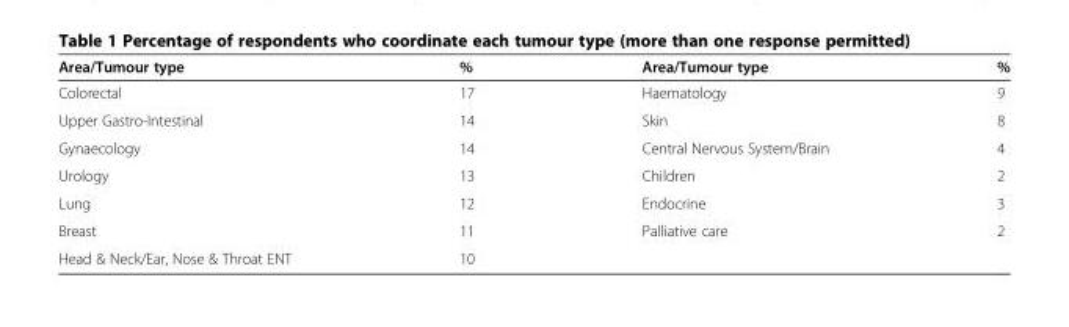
<table><thead><tr><td>Area/Tumour type</td><td>%</td><td>Area/Tumour type</td><td>%</td></tr></thead><tbody><tr><td>Colorectal</td><td>17</td><td>Haematology</td><td>9</td></tr><tr><td>Upper Gastro-Intestinal</td><td>14</td><td>Skin</td><td>8</td></tr><tr><td>Gynaecology</td><td>14</td><td>Central Nervous System/Brain</td><td>4</td></tr><tr><td>Urology</td><td>13</td><td>Children</td><td>2</td></tr><tr><td>Lung</td><td>12</td><td>Endocrine</td><td>3</td></tr><tr><td>Breast</td><td>11</td><td>Palliative care</td><td>2</td></tr><tr><td>Head &amp; Neck/Ear, Nose &amp; Throat ENT</td><td>10</td><td></td><td></td></tr></tbody></table>